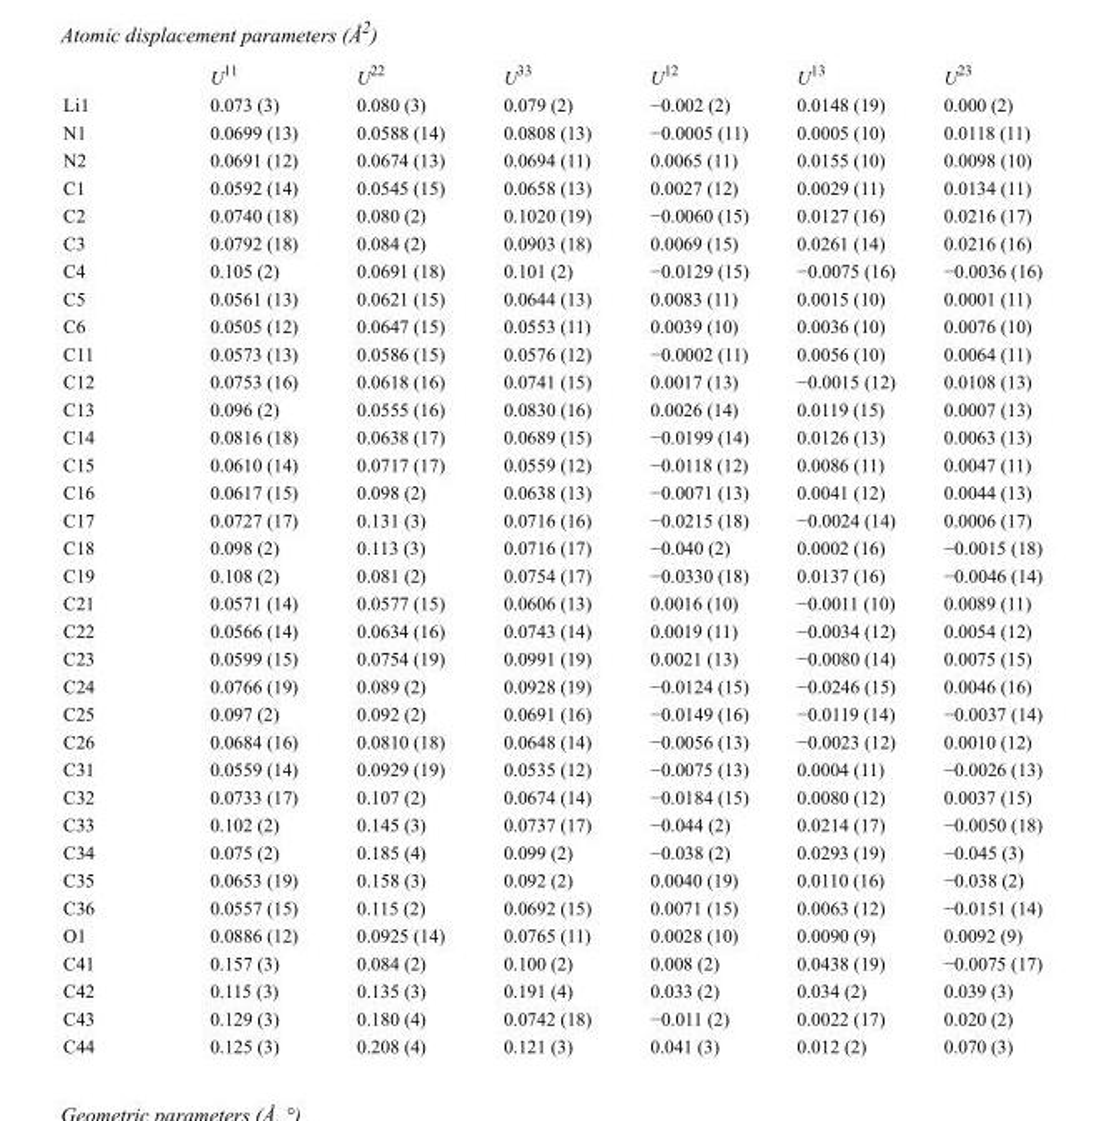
<table><thead><tr><td></td><td>U<sup>11</sup></td><td>U<sup>22</sup></td><td>U<sup>33</sup></td><td>U<sup>12</sup></td><td>U<sup>13</sup></td><td>U<sup>23</sup></td></tr></thead><tbody><tr><td>Li1</td><td>0.073 (3)</td><td>0.080 (3)</td><td>0.079 (2)</td><td>−0.002 (2)</td><td>0.0148 (19)</td><td>0.000 (2)</td></tr><tr><td>N1</td><td>0.0699 (13)</td><td>0.0588 (14)</td><td>0.0808 (13)</td><td>−0.0005 (11)</td><td>0.0005 (10)</td><td>0.0118 (11)</td></tr><tr><td>N2</td><td>0.0691 (12)</td><td>0.0674 (13)</td><td>0.0694 (11)</td><td>0.0065 (11)</td><td>0.0155 (10)</td><td>0.0098 (10)</td></tr><tr><td>C1</td><td>0.0592 (14)</td><td>0.0545 (15)</td><td>0.0658 (13)</td><td>0.0027 (12)</td><td>0.0029 (11)</td><td>0.0134 (11)</td></tr><tr><td>C2</td><td>0.0740 (18)</td><td>0.080 (2)</td><td>0.1020 (19)</td><td>−0.0060 (15)</td><td>0.0127 (16)</td><td>0.0216 (17)</td></tr><tr><td>C3</td><td>0.0792 (18)</td><td>0.084 (2)</td><td>0.0903 (18)</td><td>0.0069 (15)</td><td>0.0261 (14)</td><td>0.0216 (16)</td></tr><tr><td>C4</td><td>0.105 (2)</td><td>0.0691 (18)</td><td>0.101 (2)</td><td>−0.0129 (15)</td><td>−0.0075 (16)</td><td>−0.0036 (16)</td></tr><tr><td>C5</td><td>0.0561 (13)</td><td>0.0621 (15)</td><td>0.0644 (13)</td><td>0.0083 (11)</td><td>0.0015 (10)</td><td>0.0001 (11)</td></tr><tr><td>C6</td><td>0.0505 (12)</td><td>0.0647 (15)</td><td>0.0553 (11)</td><td>0.0039 (10)</td><td>0.0036 (10)</td><td>0.0076 (10)</td></tr><tr><td>C11</td><td>0.0573 (13)</td><td>0.0586 (15)</td><td>0.0576 (12)</td><td>−0.0002 (11)</td><td>0.0056 (10)</td><td>0.0064 (11)</td></tr><tr><td>C12</td><td>0.0753 (16)</td><td>0.0618 (16)</td><td>0.0741 (15)</td><td>0.0017 (13)</td><td>−0.0015 (12)</td><td>0.0108 (13)</td></tr><tr><td>C13</td><td>0.096 (2)</td><td>0.0555 (16)</td><td>0.0830 (16)</td><td>0.0026 (14)</td><td>0.0119 (15)</td><td>0.0007 (13)</td></tr><tr><td>C14</td><td>0.0816 (18)</td><td>0.0638 (17)</td><td>0.0689 (15)</td><td>−0.0199 (14)</td><td>0.0126 (13)</td><td>0.0063 (13)</td></tr><tr><td>C15</td><td>0.0610 (14)</td><td>0.0717 (17)</td><td>0.0559 (12)</td><td>−0.0118 (12)</td><td>0.0086 (11)</td><td>0.0047 (11)</td></tr><tr><td>C16</td><td>0.0617 (15)</td><td>0.098 (2)</td><td>0.0638 (13)</td><td>−0.0071 (13)</td><td>0.0041 (12)</td><td>0.0044 (13)</td></tr><tr><td>C17</td><td>0.0727 (17)</td><td>0.131 (3)</td><td>0.0716 (16)</td><td>−0.0215 (18)</td><td>−0.0024 (14)</td><td>0.0006 (17)</td></tr><tr><td>C18</td><td>0.098 (2)</td><td>0.113 (3)</td><td>0.0716 (17)</td><td>−0.040 (2)</td><td>0.0002 (16)</td><td>−0.0015 (18)</td></tr><tr><td>C19</td><td>0.108 (2)</td><td>0.081 (2)</td><td>0.0754 (17)</td><td>−0.0330 (18)</td><td>0.0137 (16)</td><td>−0.0046 (14)</td></tr><tr><td>C21</td><td>0.0571 (14)</td><td>0.0577 (15)</td><td>0.0606 (13)</td><td>0.0016 (10)</td><td>−0.0011 (10)</td><td>0.0089 (11)</td></tr><tr><td>C22</td><td>0.0566 (14)</td><td>0.0634 (16)</td><td>0.0743 (14)</td><td>0.0019 (11)</td><td>−0.0034 (12)</td><td>0.0054 (12)</td></tr><tr><td>C23</td><td>0.0599 (15)</td><td>0.0754 (19)</td><td>0.0991 (19)</td><td>0.0021 (13)</td><td>−0.0080 (14)</td><td>0.0075 (15)</td></tr><tr><td>C24</td><td>0.0766 (19)</td><td>0.089 (2)</td><td>0.0928 (19)</td><td>−0.0124 (15)</td><td>−0.0246 (15)</td><td>0.0046 (16)</td></tr><tr><td>C25</td><td>0.097 (2)</td><td>0.092 (2)</td><td>0.0691 (16)</td><td>−0.0149 (16)</td><td>−0.0119 (14)</td><td>−0.0037 (14)</td></tr><tr><td>C26</td><td>0.0684 (16)</td><td>0.0810 (18)</td><td>0.0648 (14)</td><td>−0.0056 (13)</td><td>−0.0023 (12)</td><td>0.0010 (12)</td></tr><tr><td>C31</td><td>0.0559 (14)</td><td>0.0929 (19)</td><td>0.0535 (12)</td><td>−0.0075 (13)</td><td>0.0004 (11)</td><td>−0.0026 (13)</td></tr><tr><td>C32</td><td>0.0733 (17)</td><td>0.107 (2)</td><td>0.0674 (14)</td><td>−0.0184 (15)</td><td>0.0080 (12)</td><td>0.0037 (15)</td></tr><tr><td>C33</td><td>0.102 (2)</td><td>0.145 (3)</td><td>0.0737 (17)</td><td>−0.044 (2)</td><td>0.0214 (17)</td><td>−0.0050 (18)</td></tr><tr><td>C34</td><td>0.075 (2)</td><td>0.185 (4)</td><td>0.099 (2)</td><td>−0.038 (2)</td><td>0.0293 (19)</td><td>−0.045 (3)</td></tr><tr><td>C35</td><td>0.0653 (19)</td><td>0.158 (3)</td><td>0.092 (2)</td><td>0.0040 (19)</td><td>0.0110 (16)</td><td>−0.038 (2)</td></tr><tr><td>C36</td><td>0.0557 (15)</td><td>0.115 (2)</td><td>0.0692 (15)</td><td>0.0071 (15)</td><td>0.0063 (12)</td><td>−0.0151 (14)</td></tr><tr><td>O1</td><td>0.0886 (12)</td><td>0.0925 (14)</td><td>0.0765 (11)</td><td>0.0028 (10)</td><td>0.0090 (9)</td><td>0.0092 (9)</td></tr><tr><td>C41</td><td>0.157 (3)</td><td>0.084 (2)</td><td>0.100 (2)</td><td>0.008 (2)</td><td>0.0438 (19)</td><td>−0.0075 (17)</td></tr><tr><td>C42</td><td>0.115 (3)</td><td>0.135 (3)</td><td>0.191 (4)</td><td>0.033 (2)</td><td>0.034 (2)</td><td>0.039 (3)</td></tr><tr><td>C43</td><td>0.129 (3)</td><td>0.180 (4)</td><td>0.0742 (18)</td><td>−0.011 (2)</td><td>0.0022 (17)</td><td>0.020 (2)</td></tr><tr><td>C44</td><td>0.125 (3)</td><td>0.208 (4)</td><td>0.121 (3)</td><td>0.041 (3)</td><td>0.012 (2)</td><td>0.070 (3)</td></tr></tbody></table>